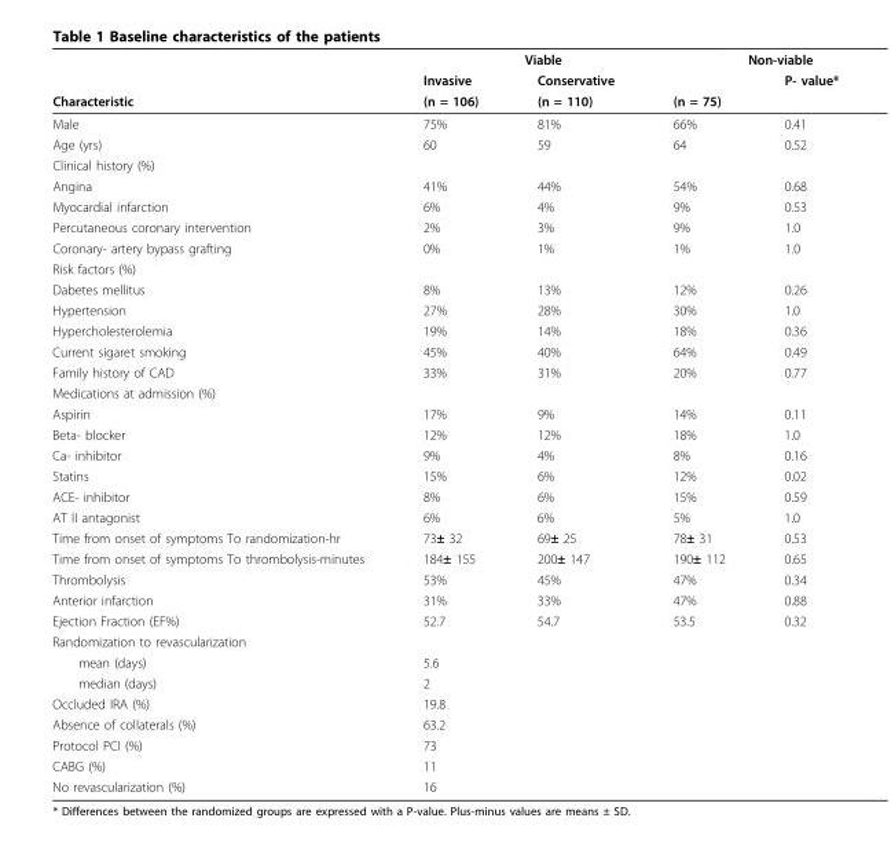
<table><thead><tr><td rowspan="3">Characteristic</td><td colspan="2">Viable</td><td colspan="2">Non-viable</td></tr><tr><td rowspan="2">Invasive (n = 106)</td><td rowspan="2">Conservative (n = 110)</td><td rowspan="2">(n = 75)</td><td rowspan="2">P- value*</td></tr><tr></tr></thead><tbody><tr><td>Male</td><td>75%</td><td>81%</td><td>66%</td><td>0.41</td></tr><tr><td>Age (yrs)</td><td>60</td><td>59</td><td>64</td><td>0.52</td></tr><tr><td colspan="5">Clinical history (%)</td></tr><tr><td>Angina</td><td>41%</td><td>44%</td><td>54%</td><td>0.68</td></tr><tr><td>Myocardial infarction</td><td>6%</td><td>4%</td><td>9%</td><td>0.53</td></tr><tr><td>Percutaneous coronary intervention</td><td>2%</td><td>3%</td><td>9%</td><td>1.0</td></tr><tr><td>Coronary- artery bypass grafting</td><td>0%</td><td>1%</td><td>1%</td><td>1.0</td></tr><tr><td colspan="5">Risk factors (%)</td></tr><tr><td>Dabetes mellitus</td><td>8%</td><td>13%</td><td>12%</td><td>0.26</td></tr><tr><td>Hypertension</td><td>27%</td><td>28%</td><td>30%</td><td>1.0</td></tr><tr><td>Hypercholesterolemia</td><td>19%</td><td>14%</td><td>18%</td><td>0.36</td></tr><tr><td>Current sigaret smoking</td><td>45%</td><td>40%</td><td>64%</td><td>0.49</td></tr><tr><td>Family history of CAD</td><td>33%</td><td>31%</td><td>20%</td><td>0.77</td></tr><tr><td colspan="5">Medications at admission (%)</td></tr><tr><td>Aspirin</td><td>17%</td><td>9%</td><td>14%</td><td>0.11</td></tr><tr><td>Beta- blocker</td><td>12%</td><td>12%</td><td>18%</td><td>1.0</td></tr><tr><td>Ca- inhibitor</td><td>9%</td><td>4%</td><td>8%</td><td>0.16</td></tr><tr><td>Statins</td><td>15%</td><td>6%</td><td>12%</td><td>0.02</td></tr><tr><td>ACE- inhibitor</td><td>8%</td><td>6%</td><td>15%</td><td>0.59</td></tr><tr><td>AT II antagonist</td><td>6%</td><td>6%</td><td>5%</td><td>1.0</td></tr><tr><td>Time from onset of symptoms To randomization-hr</td><td>73± 32</td><td>69± 25</td><td>78± 31</td><td>0.53</td></tr><tr><td>Time from onset of symptoms To thrombolysis-minutes</td><td>184± 155</td><td>200± 147</td><td>190± 112</td><td>0.65</td></tr><tr><td>Thrombolysis</td><td>53%</td><td>45%</td><td>47%</td><td>0.34</td></tr><tr><td>Anterior infarction</td><td>31%</td><td>33%</td><td>47%</td><td>0.88</td></tr><tr><td>Ejection Fraction (EF%)</td><td>52.7</td><td>54.7</td><td>53.5</td><td>0.32</td></tr><tr><td colspan="5">Randomization to revascularization</td></tr><tr><td>mean (days)</td><td>5.6</td><td></td><td></td><td></td></tr><tr><td>median (days)</td><td>2</td><td></td><td></td><td></td></tr><tr><td>Occluded IRA (%)</td><td>19.8</td><td></td><td></td><td></td></tr><tr><td>Absence of collaterals (%)</td><td>63.2</td><td></td><td></td><td></td></tr><tr><td>Protocol PCI (%)</td><td>73</td><td></td><td></td><td></td></tr><tr><td>CABG (%)</td><td>11</td><td></td><td></td><td></td></tr><tr><td>No revascularization (%)</td><td>16</td><td></td><td></td><td></td></tr></tbody></table>